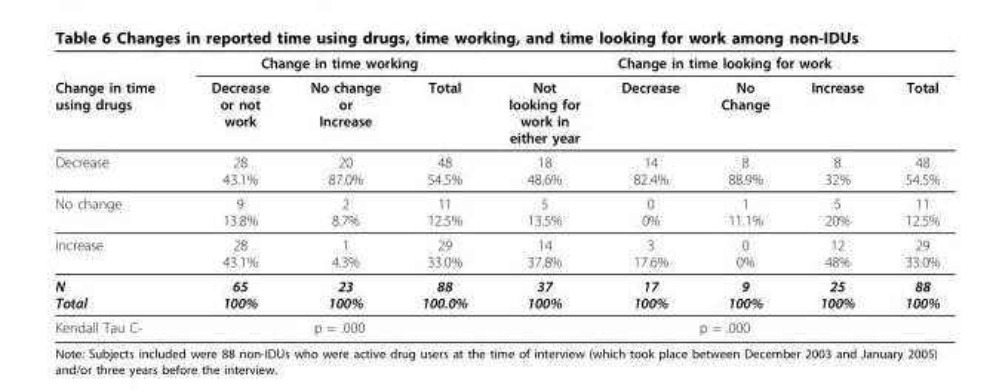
<table><thead><tr><td rowspan="2">Change in time using drugs</td><td colspan="3">Change in time working</td><td colspan="5">Change in time looking for work</td></tr><tr><td>Decrease or not work</td><td>No change or Increase</td><td>Total</td><td>Not looking for work in either year</td><td>Decrease</td><td>No Change</td><td>Increase</td><td>Total</td></tr></thead><tbody><tr><td>Decrease</td><td>28 43.1%</td><td>20 87.0%</td><td>48 54.5%</td><td>18 48.6%</td><td>14 82.4%</td><td>8 88.9%</td><td>8 32%</td><td>48 54.5%</td></tr><tr><td>No change</td><td>9 13.8%</td><td>2 8.7%</td><td>11 12.5%</td><td>5 13.5%</td><td>0 0%</td><td>1 11.1%</td><td>5 20%</td><td>11 12.5%</td></tr><tr><td>Increase</td><td>28 43.1%</td><td>1 4.3%</td><td>29 33.0%</td><td>14 37.8%</td><td>3 17.6%</td><td>0 0%</td><td>12 48%</td><td>29 33.0%</td></tr><tr><td>N Total</td><td>65 100%</td><td>23 100%</td><td>88 100.0%</td><td>37 100%</td><td>17 100%</td><td>9 100%</td><td>25 100%</td><td>88 100%</td></tr><tr><td>Kendall Tau C-</td><td colspan="3">p = .000</td><td colspan="5">p = .000</td></tr></tbody></table>